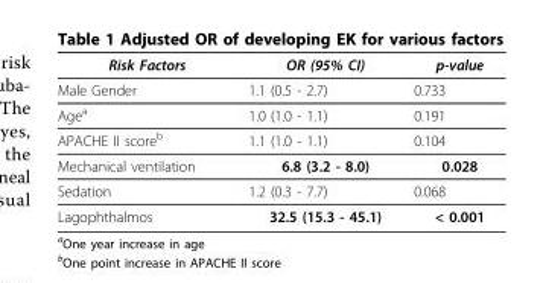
<table><thead><tr><td>Risk Factors</td><td>OR (95% CI)</td><td>p-value</td></tr></thead><tbody><tr><td>Male Gender</td><td>1.1 (0.5 - 2.7)</td><td>0.733</td></tr><tr><td>Age<sup>a</sup></td><td>1.0 (1.0 - 1.1)</td><td>0.191</td></tr><tr><td>APACHE II score<sup>b</sup></td><td>1.1 (1.0 - 1.1)</td><td>0.104</td></tr><tr><td>Mechanical ventilation</td><td>6.8 (3.2 - 8.0)</td><td>0.028</td></tr><tr><td>Sedation</td><td>1.2 (0.3 - 7.7)</td><td>0.068</td></tr><tr><td>Lagophthalmos</td><td>32.5 (15.3 - 45.1)</td><td>&lt; 0.001</td></tr></tbody></table>